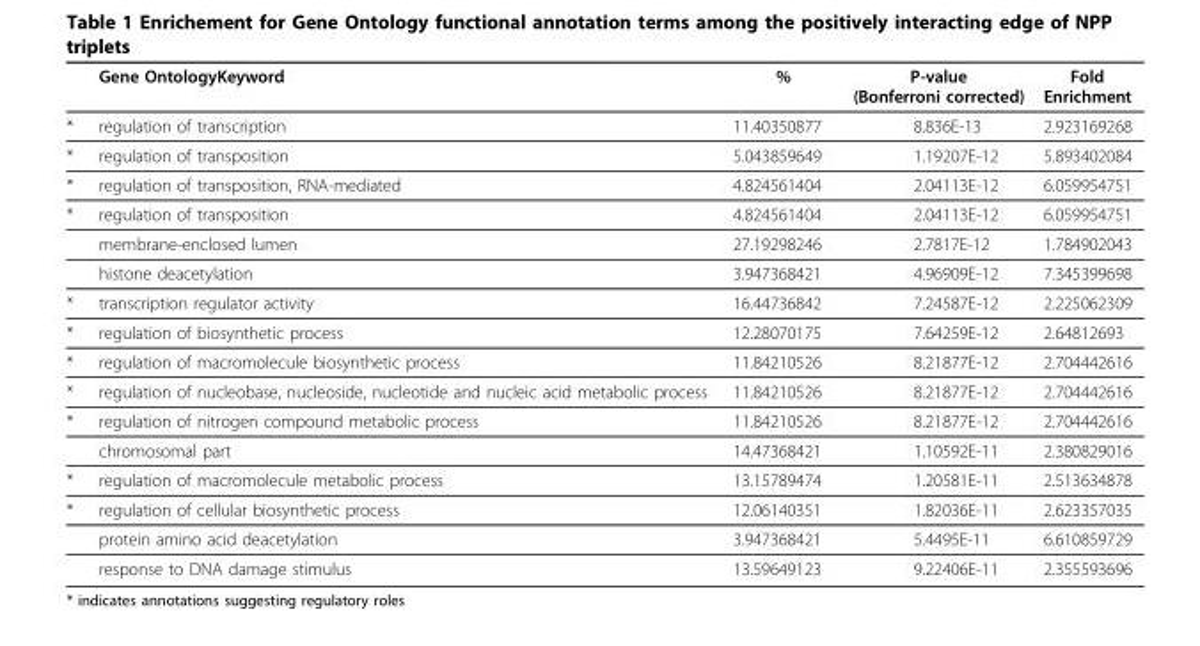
<table><thead><tr><td></td><td>Gene OntologyKeyword</td><td>%</td><td>P-value (Bonferroni corrected)</td><td>Fold Enrichment</td></tr></thead><tbody><tr><td>*</td><td>regulation of transcription</td><td>11.40350877</td><td>8.836E-13</td><td>2.923169268</td></tr><tr><td>*</td><td>regulation of transposition</td><td>5.043859649</td><td>1.19207E-12</td><td>5.893402084</td></tr><tr><td>*</td><td>regulation of transposition, RNA-mediated</td><td>4.824561404</td><td>2.04113E-12</td><td>6.059954751</td></tr><tr><td rowspan="3">*</td><td>regulation of transposition</td><td>4.824561404</td><td>2.04113E-12</td><td>6.059954751</td></tr><tr><td>membrane-enclosed lumen</td><td>27.19298246</td><td>2.7817E-12</td><td>1.784902043</td></tr><tr><td>histone deacetylation</td><td>3.947368421</td><td>4.96909E-12</td><td>7.345399698</td></tr><tr><td>*</td><td>transcription regulator activity</td><td>16.44736842</td><td>7.24587E-12</td><td>2.225062309</td></tr><tr><td>*</td><td>regulation of biosynthetic process</td><td>12.28070175</td><td>7.64259E-12</td><td>2.64812693</td></tr><tr><td>*</td><td>regulation of macromolecule biosynthetic process</td><td>11.84210526</td><td>8.21877E-12</td><td>2.704442616</td></tr><tr><td>*</td><td>regulation of nucleobase, nucleoside, nucleotide and nucleic acid metabolic process</td><td>11.84210526</td><td>8.21877E-12</td><td>2.704442616</td></tr><tr><td rowspan="2">*</td><td>regulation of nitrogen compound metabolic process</td><td>11.84210526</td><td>8.21877E-12</td><td>2.704442616</td></tr><tr><td>chromosomal part</td><td>14.47368421</td><td>1.10592E-11</td><td>2.380829016</td></tr><tr><td>*</td><td>regulation of macromolecule metabolic process</td><td>13.15789474</td><td>1.20581E-11</td><td>2.513634878</td></tr><tr><td rowspan="3">*</td><td>regulation of cellular biosynthetic process</td><td>12.06140351</td><td>1.82036E-11</td><td>2.623357035</td></tr><tr><td>protein amino acid deacetylation</td><td>3.947368421</td><td>5.4495E-11</td><td>6.610859729</td></tr><tr><td>response to DNA damage stimulus</td><td>13.59649123</td><td>9.22406E-11</td><td>2.355593696</td></tr></tbody></table>